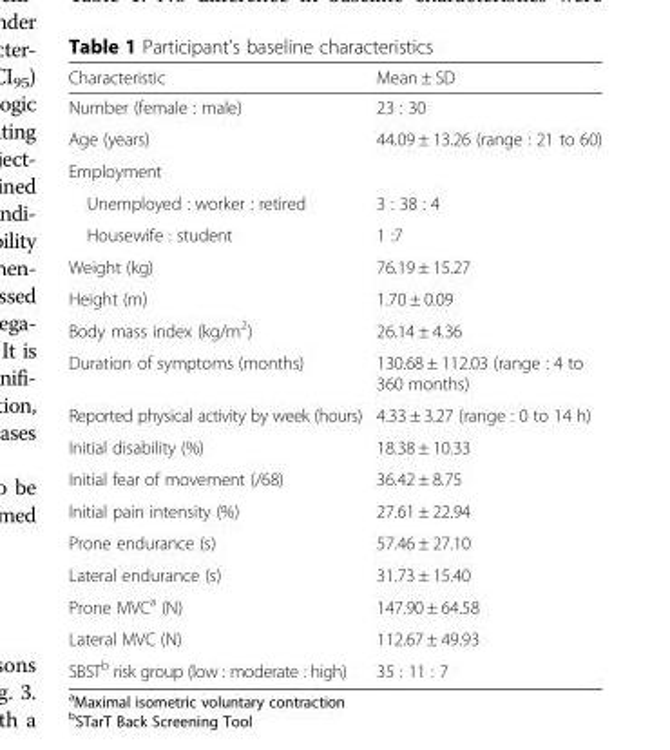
<table><thead><tr><td>Characteristic</td><td>Mean ± SD</td></tr></thead><tbody><tr><td>Number (female : male)</td><td>23 : 30</td></tr><tr><td>Age (years)</td><td>44.09 ± 13.26 (range : 21 to 60)</td></tr><tr><td colspan="2">Employment</td></tr><tr><td>Unemployed : worker : retired</td><td>3 : 38 : 4</td></tr><tr><td>Housewife : student</td><td>1 :7</td></tr><tr><td>Weight (kg)</td><td>76.19 ± 15.27</td></tr><tr><td>Height (m)</td><td>1.70 ± 0.09</td></tr><tr><td>Body mass index (kg/m<sup>2</sup>)</td><td>26.14 ± 4.36</td></tr><tr><td>Duration of symptoms (months)</td><td>130.68 ± 112.03 (range : 4 to 360 months)</td></tr><tr><td>Reported physical activity by week (hours)</td><td>4.33 ± 3.27 (range : 0 to 14 h)</td></tr><tr><td>Initial disability (%)</td><td>18.38 ± 10.33</td></tr><tr><td>Initial fear of movement (/68)</td><td>36.42 ± 8.75</td></tr><tr><td>Initial pain intensity (%)</td><td>27.61 ± 22.94</td></tr><tr><td>Prone endurance (s)</td><td>57.46 ± 27.10</td></tr><tr><td>Lateral endurance (s)</td><td>31.73 ± 15.40</td></tr><tr><td>Prone MVC<sup>a</sup> (N)</td><td>147.90 ± 64.58</td></tr><tr><td>Lateral MVC (N)</td><td>112.67 ± 49.93</td></tr><tr><td>SBST<sup>b</sup> risk group (low : moderate : high)</td><td>35 : 11 : 7</td></tr></tbody></table>